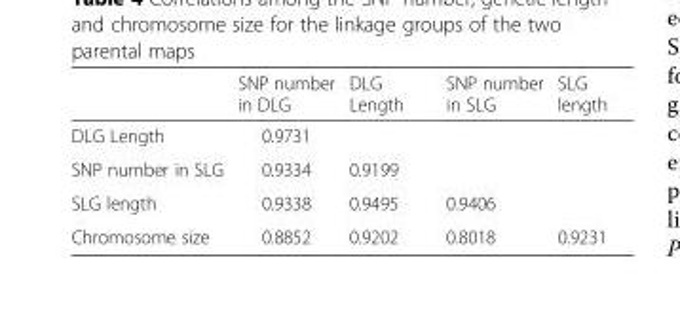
<table><thead><tr><td></td><td>SNP number in DLG</td><td>DLG Length</td><td>SNP number in SLG</td><td>SLG length</td></tr></thead><tbody><tr><td>DLG Length</td><td>0.9731</td><td></td><td></td><td></td></tr><tr><td>SNP number in SLG</td><td>0.9334</td><td>0.9199</td><td></td><td></td></tr><tr><td>SLG length</td><td>0.9338</td><td>0.9495</td><td>0.9406</td><td></td></tr><tr><td>Chromosome size</td><td>0.8852</td><td>0.9202</td><td>0.8018</td><td>0.9231</td></tr></tbody></table>